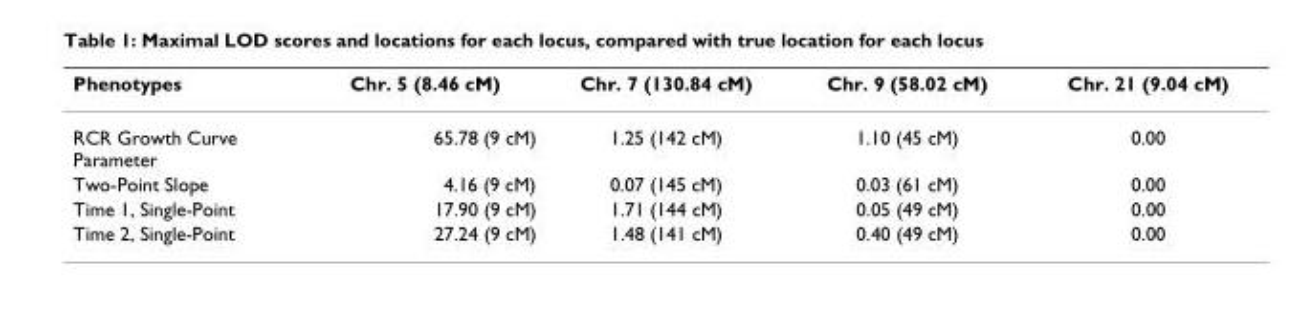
<table><thead><tr><td>Phenotypes</td><td>Chr. 5 (8.46 cM)</td><td>Chr. 7 (130.84 cM)</td><td>Chr. 9 (58.02 cM)</td><td>Chr. 21 (9.04 cM)</td></tr></thead><tbody><tr><td>RCR Growth Curve Parameter</td><td>65.78 (9 cM)</td><td>1.25 (142 cM)</td><td>1.10 (45 cM)</td><td>0.00</td></tr><tr><td>Two-Point Slope</td><td>4.16 (9 cM)</td><td>0.07 (145 cM)</td><td>0.03 (61 cM)</td><td>0.00</td></tr><tr><td>Time 1, Single-Point</td><td>17.90 (9 cM)</td><td>1.71 (144 cM)</td><td>0.05 (49 cM)</td><td>0.00</td></tr><tr><td>Time 2, Single-Point</td><td>27.24 (9 cM)</td><td>1.48 (141 cM)</td><td>0.40 (49 cM)</td><td>0.00</td></tr></tbody></table>